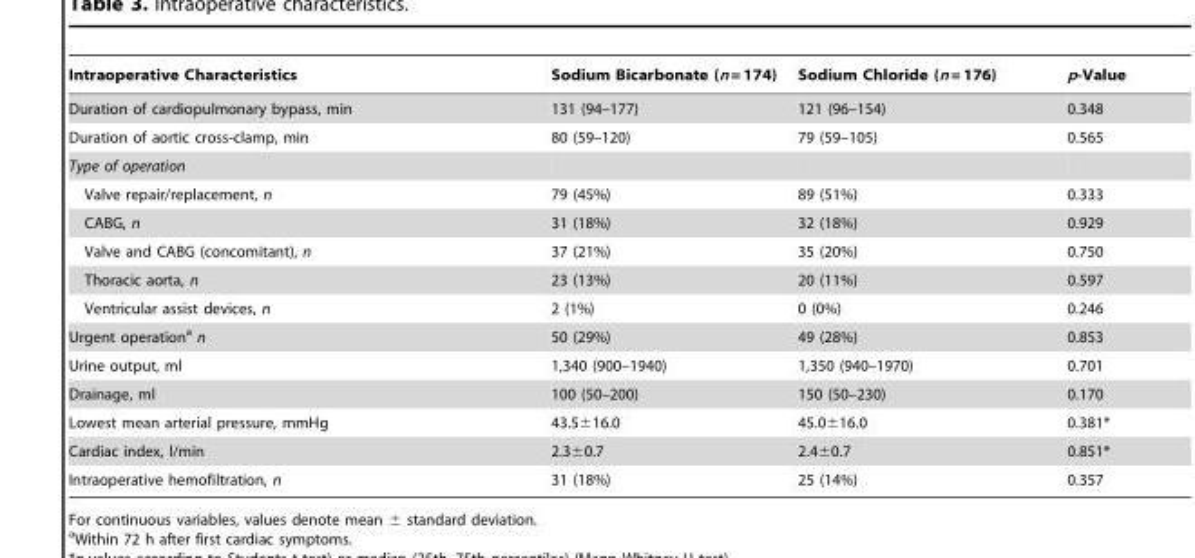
<table><thead><tr><td>Intraoperative Characteristics</td><td>Sodium Bicarbonate (n = 174)</td><td>Sodium Chloride (n = 176)</td><td>p-Value</td></tr></thead><tbody><tr><td>Duration of cardiopulmonary bypass, min</td><td>131 (94–177)</td><td>121 (96–154)</td><td>0.348</td></tr><tr><td>Duration of aortic cross-clamp, min</td><td>80 (59–120)</td><td>79 (59–105)</td><td>0.565</td></tr><tr><td colspan="4">Type of operation</td></tr><tr><td>Valve repair/replacement, n</td><td>79 (45%)</td><td>89 (51%)</td><td>0.333</td></tr><tr><td>CABG, n</td><td>31 (18%)</td><td>32 (18%)</td><td>0.929</td></tr><tr><td>Valve and CABG (concomitant), n</td><td>37 (21%)</td><td>35 (20%)</td><td>0.750</td></tr><tr><td>Thoracic aorta, n</td><td>23 (13%)</td><td>20 (11%)</td><td>0.597</td></tr><tr><td>Ventricular assist devices, n</td><td>2 (1%)</td><td>0 (0%)</td><td>0.246</td></tr><tr><td>Urgent operation<sup>a</sup> n</td><td>50 (29%)</td><td>49 (28%)</td><td>0.853</td></tr><tr><td>Urine output, ml</td><td>1,340 (900–1940)</td><td>1,350 (940–1970)</td><td>0.701</td></tr><tr><td>Drainage, ml</td><td>100 (50–200)</td><td>150 (50–230)</td><td>0.170</td></tr><tr><td>Lowest mean arterial pressure, mmHg</td><td>43.5±16.0</td><td>45.0±16.0</td><td>0.381*</td></tr><tr><td>Cardiac index, l/min</td><td>2.3±0.7</td><td>2.4±0.7</td><td>0.851*</td></tr><tr><td>Intraoperative hemofiltration, n</td><td>31 (18%)</td><td>25 (14%)</td><td>0.357</td></tr></tbody></table>